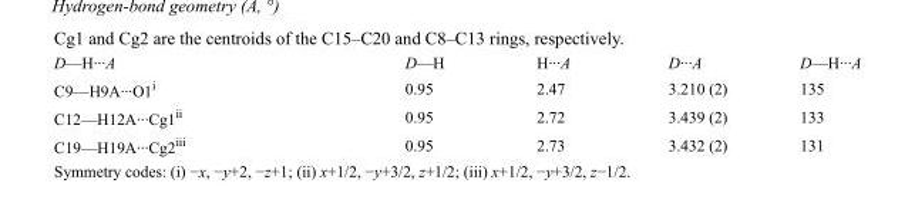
<table><tbody><tr><td>D—H···A</td><td>D—H</td><td>H···A</td><td>D···A</td><td>D—H···A</td></tr><tr><td>C9—H9A···O1<sup>i</sup></td><td>0.95</td><td>2.47</td><td>3.210 (2)</td><td>135</td></tr><tr><td>C12—H12A···Cg1<sup>ii</sup></td><td>0.95</td><td>2.72</td><td>3.439 (2)</td><td>133</td></tr><tr><td>C19—H19A···Cg2<sup>iii</sup></td><td>0.95</td><td>2.73</td><td>3.432 (2)</td><td>131</td></tr></tbody></table>